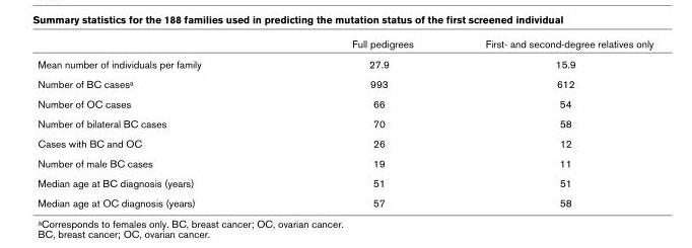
<table><thead><tr><td></td><td>Full pedigrees</td><td>First- and second-degree relatives only</td></tr></thead><tbody><tr><td>Mean number of individuals per family</td><td>27.9</td><td>15.9</td></tr><tr><td>Number of BC casesa</td><td>993</td><td>612</td></tr><tr><td>Number of OC cases</td><td>66</td><td>54</td></tr><tr><td>Number of bilateral BC cases</td><td>70</td><td>58</td></tr><tr><td>Cases with BC and OC</td><td>26</td><td>12</td></tr><tr><td>Number of male BC cases</td><td>19</td><td>11</td></tr><tr><td>Median age at BC diagnosis (years)</td><td>51</td><td>51</td></tr><tr><td>Median age at OC diagnosis (years)</td><td>57</td><td>58</td></tr></tbody></table>